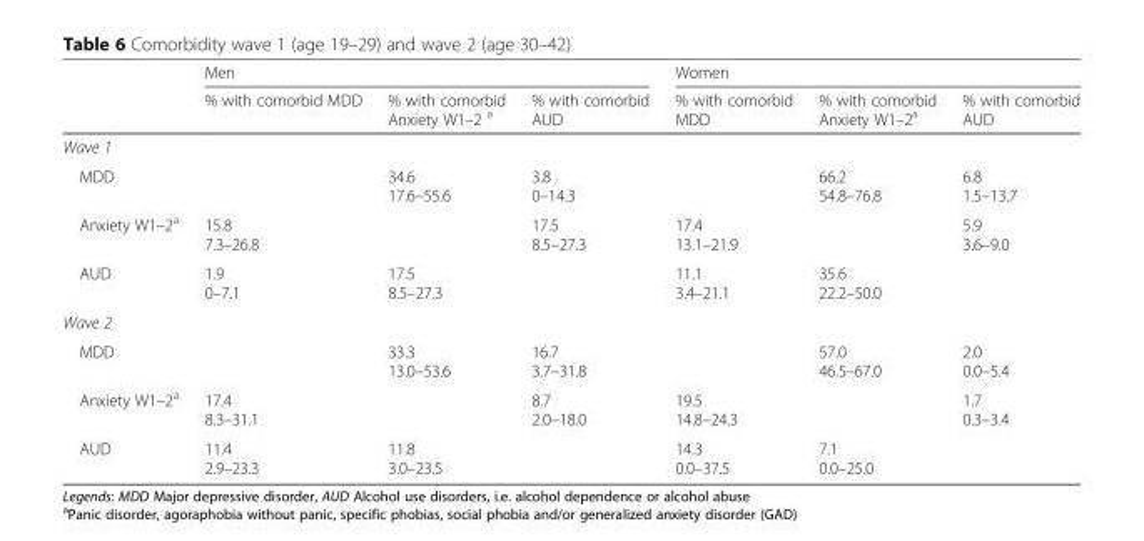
<table><thead><tr><td rowspan="2"></td><td colspan="3">Men</td><td colspan="3">Women</td></tr><tr><td>% with comorbid MDD</td><td>% with comorbid Anxiety W1–2 <sup>a</sup></td><td>% with comorbid AUD</td><td>% with comorbid MDD</td><td>% with comorbid Anxiety W1–2<sup>a</sup></td><td>% with comorbid AUD</td></tr></thead><tbody><tr><td colspan="7">Wave 1</td></tr><tr><td>MDD</td><td></td><td>34.6 17.6–55.6</td><td>3.8 0–14.3</td><td></td><td>66.2 54.8–76.8</td><td>6.8 1.5–13.7</td></tr><tr><td>Anxiety W1–2<sup>a</sup></td><td>15.8 7.3–26.8</td><td></td><td>17.5 8.5–27.3</td><td>17.4 13.1–21.9</td><td></td><td>5.9 3.6–9.0</td></tr><tr><td>AUD</td><td>1.9 0–7.1</td><td>17.5 8.5–27.3</td><td></td><td>11.1 3.4–21.1</td><td>35.6 22.2–50.0</td><td></td></tr><tr><td colspan="7">Wave 2</td></tr><tr><td>MDD</td><td></td><td>33.3 13.0–53.6</td><td>16.7 3.7–31.8</td><td></td><td>57.0 46.5–67.0</td><td>2.0 0.0–5.4</td></tr><tr><td>Anxiety W1–2<sup>a</sup></td><td>17.4 8.3–31.1</td><td></td><td>8.7 2.0–18.0</td><td>19.5 14.8–24.3</td><td></td><td>1.7 0.3–3.4</td></tr><tr><td>AUD</td><td>11.4 2.9–23.3</td><td>11.8 3.0–23.5</td><td></td><td>14.3 0.0–37.5</td><td>7.1 0.0–25.0</td><td></td></tr></tbody></table>